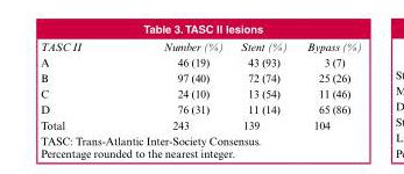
<table><thead><tr><td>TASC II</td><td>Number (%)</td><td>Stent (%)</td><td>Bypass (%)</td></tr></thead><tbody><tr><td>A</td><td>46 (19)</td><td>43 (93)</td><td>3 (7)</td></tr><tr><td>B</td><td>97 (40)</td><td>72 (74)</td><td>25 (26)</td></tr><tr><td>C</td><td>24 (10)</td><td>13 (54)</td><td>11 (46)</td></tr><tr><td>D</td><td>76 (31)</td><td>11 (14)</td><td>65 (86)</td></tr><tr><td>Total</td><td>243</td><td>139</td><td>104</td></tr></tbody></table>